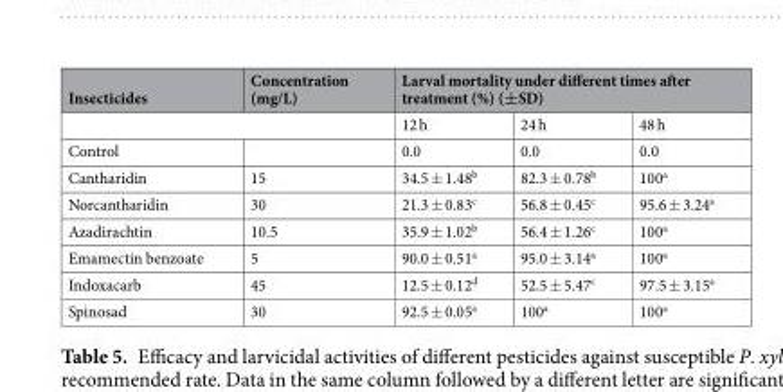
<table><thead><tr><td>Insecticides</td><td>Concentration (mg/L)</td><td colspan="3">Larval mortality under different times after treatment (%) (±SD)</td></tr><tr><td colspan="2"></td><td>12 h</td><td>24 h</td><td>48 h</td></tr></thead><tbody><tr><td>Control</td><td></td><td>0.0</td><td>0.0</td><td>0.0</td></tr><tr><td>Cantharidin</td><td>15</td><td>34.5 ± 1.48<sup>b</sup></td><td>82.3 ± 0.78<sup>b</sup></td><td>100<sup>a</sup></td></tr><tr><td>Norcantharidin</td><td>30</td><td>21.3 ± 0.83<sup>c</sup></td><td>56.8 ± 0.45<sup>c</sup></td><td>95.6 ± 3.24<sup>a</sup></td></tr><tr><td>Azadirachtin</td><td>10.5</td><td>35.9 ± 1.02<sup>b</sup></td><td>56.4 ± 1.26<sup>c</sup></td><td>100<sup>a</sup></td></tr><tr><td>Emamectin benzoate</td><td>5</td><td>90.0 ± 0.51<sup>a</sup></td><td>95.0 ± 3.14<sup>a</sup></td><td>100<sup>a</sup></td></tr><tr><td>Indoxacarb</td><td>45</td><td>12.5 ± 0.12<sup>d</sup></td><td>52.5 ± 5.47<sup>c</sup></td><td>97.5 ± 3.15<sup>a</sup></td></tr><tr><td>Spinosad</td><td>30</td><td>92.5 ± 0.05<sup>a</sup></td><td>100<sup>a</sup></td><td>100<sup>a</sup></td></tr></tbody></table>